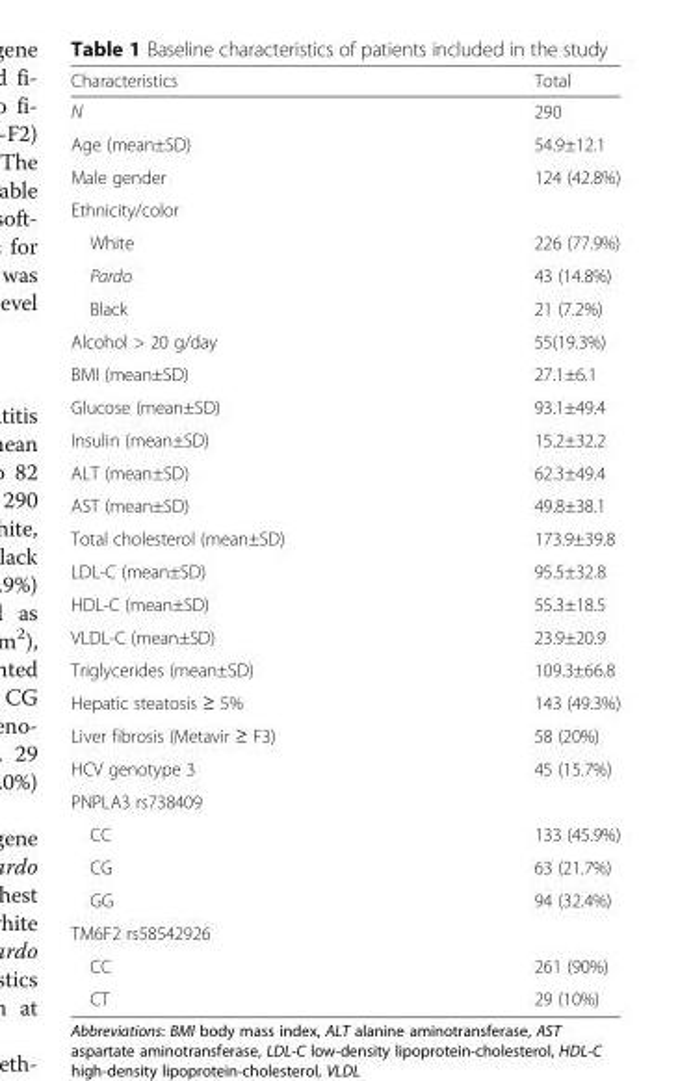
<table><thead><tr><td>Characteristics</td><td>Total</td></tr></thead><tbody><tr><td>N</td><td>290</td></tr><tr><td>Age (mean±SD)</td><td>54.9±12.1</td></tr><tr><td>Male gender</td><td>124 (42.8%)</td></tr><tr><td colspan="2">Ethnicity/color</td></tr><tr><td>White</td><td>226 (77.9%)</td></tr><tr><td>Pardo</td><td>43 (14.8%)</td></tr><tr><td>Black</td><td>21 (7.2%)</td></tr><tr><td>Alcohol &gt; 20 g/day</td><td>55(19.3%)</td></tr><tr><td>BMI (mean±SD)</td><td>27.1±6.1</td></tr><tr><td>Glucose (mean±SD)</td><td>93.1±49.4</td></tr><tr><td>Insulin (mean±SD)</td><td>15.2±32.2</td></tr><tr><td>ALT (mean±SD)</td><td>62.3±49.4</td></tr><tr><td>AST (mean±SD)</td><td>49.8±38.1</td></tr><tr><td>Total cholesterol (mean±SD)</td><td>173.9±39.8</td></tr><tr><td>LDL-C (mean±SD)</td><td>95.5±32.8</td></tr><tr><td>HDL-C (mean±SD)</td><td>55.3±18.5</td></tr><tr><td>VLDL-C (mean±SD)</td><td>23.9±20.9</td></tr><tr><td>Triglycerides (mean±SD)</td><td>109.3±66.8</td></tr><tr><td>Hepatic steatosis ≥ 5%</td><td>143 (49.3%)</td></tr><tr><td>Liver fibrosis (Metavir ≥ F3)</td><td>58 (20%)</td></tr><tr><td>HCV genotype 3</td><td>45 (15.7%)</td></tr><tr><td colspan="2">PNPLA3 rs738409</td></tr><tr><td>CC</td><td>133 (45.9%)</td></tr><tr><td>CG</td><td>63 (21.7%)</td></tr><tr><td>GG</td><td>94 (32.4%)</td></tr><tr><td colspan="2">TM6F2 rs58542926</td></tr><tr><td>CC</td><td>261 (90%)</td></tr><tr><td>CT</td><td>29 (10%)</td></tr></tbody></table>